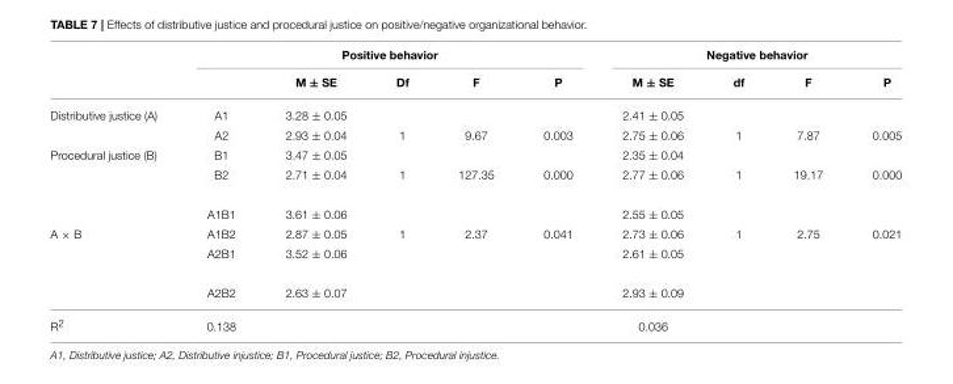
<table><thead><tr><td rowspan="2"></td><td colspan="5">Positive behavior</td><td colspan="4">Negative behavior</td></tr><tr><td></td><td>M ± SE</td><td>Df</td><td>F</td><td>P</td><td>M ± SE</td><td>df</td><td>F</td><td>P</td></tr></thead><tbody><tr><td rowspan="2">Distributive justice (A)</td><td>A1</td><td>3.28 ± 0.05</td><td></td><td></td><td></td><td>2.41 ± 0.05</td><td></td><td></td><td></td></tr><tr><td>A2</td><td>2.93 ± 0.04</td><td>1</td><td>9.67</td><td>0.003</td><td>2.75 ± 0.06</td><td>1</td><td>7.87</td><td>0.005</td></tr><tr><td rowspan="3">Procedural justice (B)</td><td>B1</td><td>3.47 ± 0.05</td><td></td><td></td><td></td><td>2.35 ± 0.04</td><td></td><td></td><td></td></tr><tr><td>B2</td><td>2.71 ± 0.04</td><td>1</td><td>127.35</td><td>0.000</td><td>2.77 ± 0.06</td><td>1</td><td>19.17</td><td>0.000</td></tr><tr><td>A1B1</td><td>3.61 ± 0.06</td><td></td><td></td><td></td><td>2.55 ± 0.05</td><td></td><td></td><td></td></tr><tr><td rowspan="3">A × B</td><td>A1B2</td><td>2.87 ± 0.05</td><td>1</td><td>2.37</td><td>0.041</td><td>2.73 ± 0.06</td><td>1</td><td>2.75</td><td>0.021</td></tr><tr><td>A2B1</td><td>3.52 ± 0.06</td><td></td><td></td><td></td><td>2.61 ± 0.05</td><td></td><td></td><td></td></tr><tr><td>A2B2</td><td>2.63 ± 0.07</td><td></td><td></td><td></td><td>2.93 ± 0.09</td><td></td><td></td><td></td></tr><tr><td>R<sup>2</sup></td><td>0.138</td><td></td><td></td><td></td><td></td><td>0.036</td><td></td><td></td><td></td></tr></tbody></table>